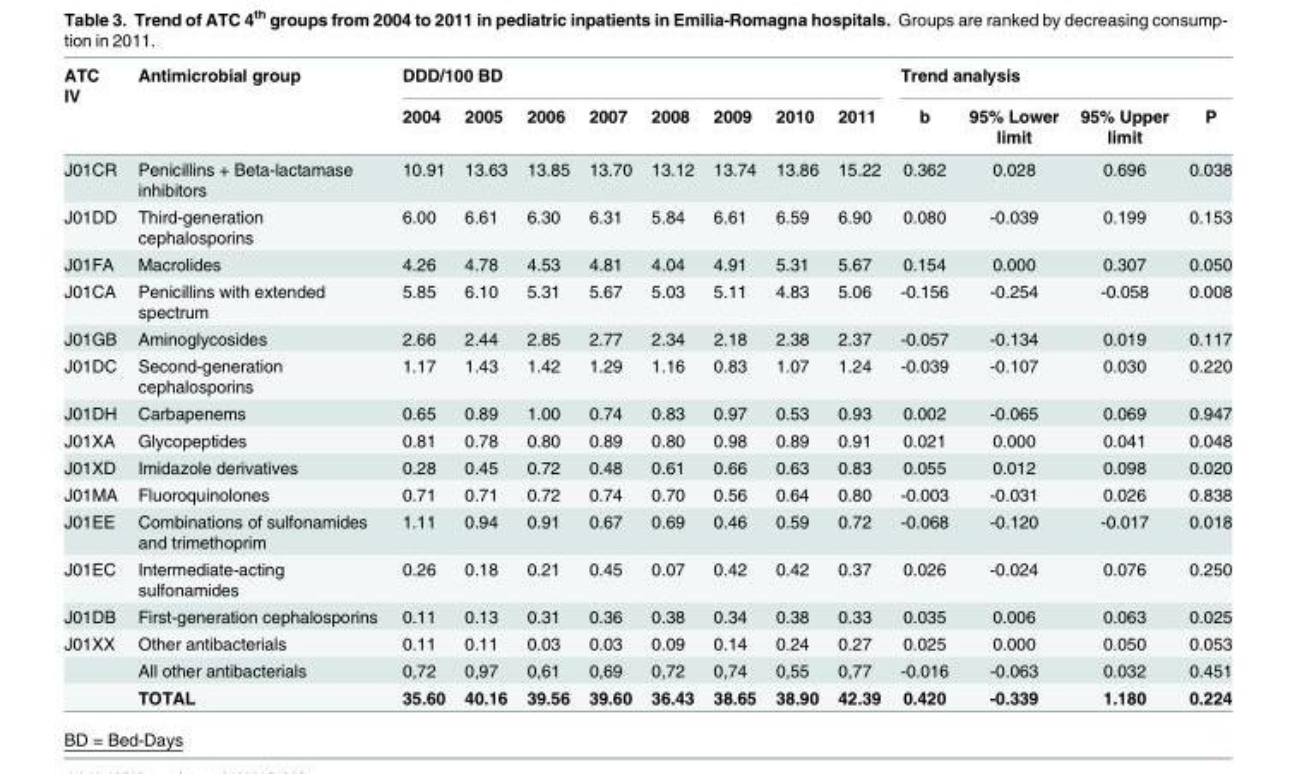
<table><thead><tr><td rowspan="2">ATC IV</td><td rowspan="2">Antimicrobial group</td><td colspan="8">DDD/100 BD</td><td colspan="4">Trend analysis</td></tr><tr><td>2004</td><td>2005</td><td>2006</td><td>2007</td><td>2008</td><td>2009</td><td>2010</td><td>2011</td><td>b</td><td>95% Lower limit</td><td>95% Upper limit</td><td>P</td></tr></thead><tbody><tr><td>J01CR</td><td>Penicillins + Beta-lactamase inhibitors</td><td>10.91</td><td>13.63</td><td>13.85</td><td>13.70</td><td>13.12</td><td>13.74</td><td>13.86</td><td>15.22</td><td>0.362</td><td>0.028</td><td>0.696</td><td>0.038</td></tr><tr><td>J01DD</td><td>Third-generation cephalosporins</td><td>6.00</td><td>6.61</td><td>6.30</td><td>6.31</td><td>5.84</td><td>6.61</td><td>6.59</td><td>6.90</td><td>0.080</td><td>-0.039</td><td>0.199</td><td>0.153</td></tr><tr><td>J01FA</td><td>Macrolides</td><td>4.26</td><td>4.78</td><td>4.53</td><td>4.81</td><td>4.04</td><td>4.91</td><td>5.31</td><td>5.67</td><td>0.154</td><td>0.000</td><td>0.307</td><td>0.050</td></tr><tr><td>J01CA</td><td>Penicillins with extended spectrum</td><td>5.85</td><td>6.10</td><td>5.31</td><td>5.67</td><td>5.03</td><td>5.11</td><td>4.83</td><td>5.06</td><td>-0.156</td><td>-0.254</td><td>-0.058</td><td>0.008</td></tr><tr><td>J01GB</td><td>Aminoglycosides</td><td>2.66</td><td>2.44</td><td>2.85</td><td>2.77</td><td>2.34</td><td>2.18</td><td>2.38</td><td>2.37</td><td>-0.057</td><td>-0.134</td><td>0.019</td><td>0.117</td></tr><tr><td>J01DC</td><td>Second-generation cephalosporins</td><td>1.17</td><td>1.43</td><td>1.42</td><td>1.29</td><td>1.16</td><td>0.83</td><td>1.07</td><td>1.24</td><td>-0.039</td><td>-0.107</td><td>0.030</td><td>0.220</td></tr><tr><td>J01DH</td><td>Carbapenems</td><td>0.65</td><td>0.89</td><td>1.00</td><td>0.74</td><td>0.83</td><td>0.97</td><td>0.53</td><td>0.93</td><td>0.002</td><td>-0.065</td><td>0.069</td><td>0.947</td></tr><tr><td>J01XA</td><td>Glycopeptides</td><td>0.81</td><td>0.78</td><td>0.80</td><td>0.89</td><td>0.80</td><td>0.98</td><td>0.89</td><td>0.91</td><td>0.021</td><td>0.000</td><td>0.041</td><td>0.048</td></tr><tr><td>J01XD</td><td>Imidazole derivatives</td><td>0.28</td><td>0.45</td><td>0.72</td><td>0.48</td><td>0.61</td><td>0.66</td><td>0.63</td><td>0.83</td><td>0.055</td><td>0.012</td><td>0.098</td><td>0.020</td></tr><tr><td>J01MA</td><td>Fluoroquinolones</td><td>0.71</td><td>0.71</td><td>0.72</td><td>0.74</td><td>0.70</td><td>0.56</td><td>0.64</td><td>0.80</td><td>-0.003</td><td>-0.031</td><td>0.026</td><td>0.838</td></tr><tr><td>J01EE</td><td>Combinations of sulfonamides and trimethoprim</td><td>1.11</td><td>0.94</td><td>0.91</td><td>0.67</td><td>0.69</td><td>0.46</td><td>0.59</td><td>0.72</td><td>-0.068</td><td>-0.120</td><td>-0.017</td><td>0.018</td></tr><tr><td>J01EC</td><td>Intermediate-acting sulfonamides</td><td>0.26</td><td>0.18</td><td>0.21</td><td>0.45</td><td>0.07</td><td>0.42</td><td>0.42</td><td>0.37</td><td>0.026</td><td>-0.024</td><td>0.076</td><td>0.250</td></tr><tr><td>J01DB</td><td>First-generation cephalosporins</td><td>0.11</td><td>0.13</td><td>0.31</td><td>0.36</td><td>0.38</td><td>0.34</td><td>0.38</td><td>0.33</td><td>0.035</td><td>0.006</td><td>0.063</td><td>0.025</td></tr><tr><td rowspan="3">J01XX</td><td>Other antibacterials</td><td>0.11</td><td>0.11</td><td>0.03</td><td>0.03</td><td>0.09</td><td>0.14</td><td>0.24</td><td>0.27</td><td>0.025</td><td>0.000</td><td>0.050</td><td>0.053</td></tr><tr><td>All other antibacterials</td><td>0,72</td><td>0,97</td><td>0,61</td><td>0,69</td><td>0,72</td><td>0,74</td><td>0,55</td><td>0,77</td><td>-0.016</td><td>-0.063</td><td>0.032</td><td>0.451</td></tr><tr><td>TOTAL</td><td>35.60</td><td>40.16</td><td>39.56</td><td>39.60</td><td>36.43</td><td>38.65</td><td>38.90</td><td>42.39</td><td>0.420</td><td>-0.339</td><td>1.180</td><td>0.224</td></tr></tbody></table>